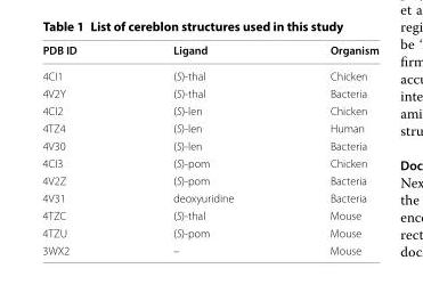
<table><thead><tr><td>PDB ID</td><td>Ligand</td><td>Organism</td></tr></thead><tbody><tr><td>4CI1</td><td>(S)‑thal</td><td>Chicken</td></tr><tr><td>4V2Y</td><td>(S)‑thal</td><td>Bacteria</td></tr><tr><td>4CI2</td><td>(S)‑len</td><td>Chicken</td></tr><tr><td>4TZ4</td><td>(S)‑len</td><td>Human</td></tr><tr><td>4V30</td><td>(S)‑len</td><td>Bacteria</td></tr><tr><td>4CI3</td><td>(S)‑pom</td><td>Chicken</td></tr><tr><td>4V2Z</td><td>(S)‑pom</td><td>Bacteria</td></tr><tr><td>4V31</td><td>deoxyuridine</td><td>Bacteria</td></tr><tr><td>4TZC</td><td>(S)‑thal</td><td>Mouse</td></tr><tr><td>4TZU</td><td>(S)‑pom</td><td>Mouse</td></tr><tr><td>3WX2</td><td>–</td><td>Mouse</td></tr></tbody></table>